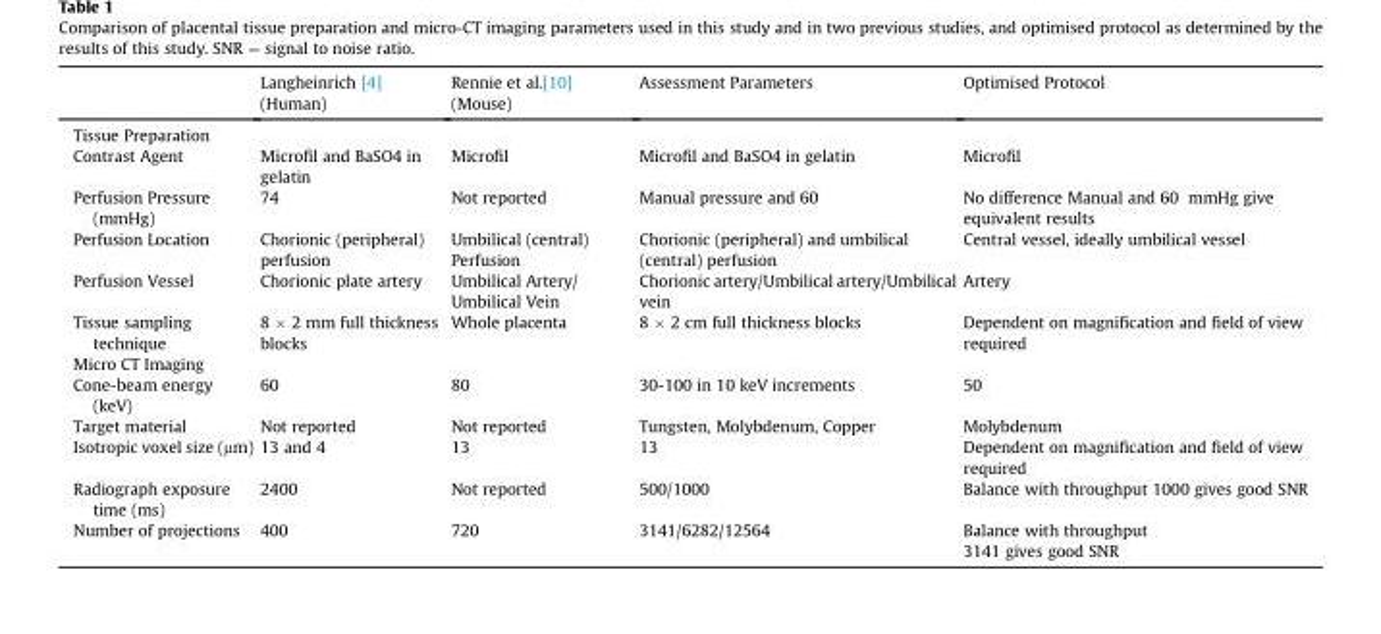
<table><thead><tr><td></td><td>Langheinrich [4] (Human)</td><td>Rennie et al.[10] (Mouse)</td><td>Assessment Parameters</td><td>Optimised Protocol</td></tr></thead><tbody><tr><td colspan="5">Tissue Preparation</td></tr><tr><td>Contrast Agent</td><td>Microfil and BaSO4 in gelatin</td><td>Microfil</td><td>Microfil and BaSO4 in gelatin</td><td>Microfil</td></tr><tr><td>Perfusion Pressure (mmHg)</td><td>74</td><td>Not reported</td><td>Manual pressure and 60</td><td>No difference Manual and 60 mmHg give equivalent results</td></tr><tr><td>Perfusion Location</td><td>Chorionic (peripheral) perfusion</td><td>Umbilical (central) Perfusion</td><td>Chorionic (peripheral) and umbilical (central) perfusion</td><td>Central vessel, ideally umbilical vessel</td></tr><tr><td>Perfusion Vessel</td><td>Chorionic plate artery</td><td>Umbilical Artery/ Umbilical Vein</td><td>Chorionic artery/Umbilical artery/Umbilical vein</td><td>Artery</td></tr><tr><td>Tissue sampling technique</td><td>8 × 2 mm full thickness blocks</td><td>Whole placenta</td><td>8 × 2 cm full thickness blocks</td><td>Dependent on magnification and field of view required</td></tr><tr><td colspan="5">Micro CT Imaging</td></tr><tr><td>Cone-beam energy (keV)</td><td>60</td><td>80</td><td>30-100 in 10 keV increments</td><td>50</td></tr><tr><td>Target material</td><td>Not reported</td><td>Not reported</td><td>Tungsten, Molybdenum, Copper</td><td>Molybdenum</td></tr><tr><td>Isotropic voxel size (μm)</td><td>13 and 4</td><td>13</td><td>13</td><td>Dependent on magnification and field of view required</td></tr><tr><td>Radiograph exposure time (ms)</td><td>2400</td><td>Not reported</td><td>500/1000</td><td>Balance with throughput 1000 gives good SNR</td></tr><tr><td>Number of projections</td><td>400</td><td>720</td><td>3141/6282/12564</td><td>Balance with throughput 3141 gives good SNR</td></tr></tbody></table>